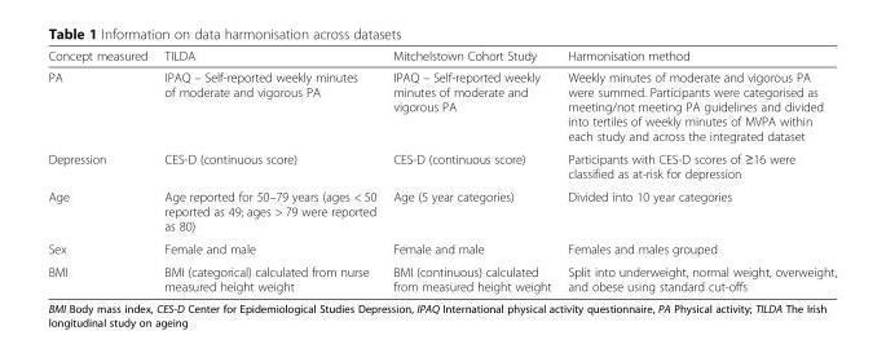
<table><thead><tr><td>Concept measured</td><td>TILDA</td><td>Mitchelstown Cohort Study</td><td>Harmonisation method</td></tr></thead><tbody><tr><td>PA</td><td>IPAQ – Self-reported weekly minutes of moderate and vigorous PA</td><td>IPAQ – Self-reported weekly minutes of moderate and vigorous PA</td><td>Weekly minutes of moderate and vigorous PA were summed. Participants were categorised as meeting/not meeting PA guidelines and divided into tertiles of weekly minutes of MVPA within each study and across the integrated dataset</td></tr><tr><td>Depression</td><td>CES-D (continuous score)</td><td>CES-D (continuous score)</td><td>Participants with CES-D scores of ≥16 were classified as at-risk for depression</td></tr><tr><td>Age</td><td>Age reported for 50–79 years (ages &lt; 50 reported as 49; ages &gt; 79 were reported as 80)</td><td>Age (5 year categories)</td><td>Divided into 10 year categories</td></tr><tr><td>Sex</td><td>Female and male</td><td>Female and male</td><td>Females and males grouped</td></tr><tr><td>BMI</td><td>BMI (categorical) calculated from nurse measured height weight</td><td>BMI (continuous) calculated from measured height weight</td><td>Split into underweight, normal weight, overweight, and obese using standard cut-offs</td></tr></tbody></table>